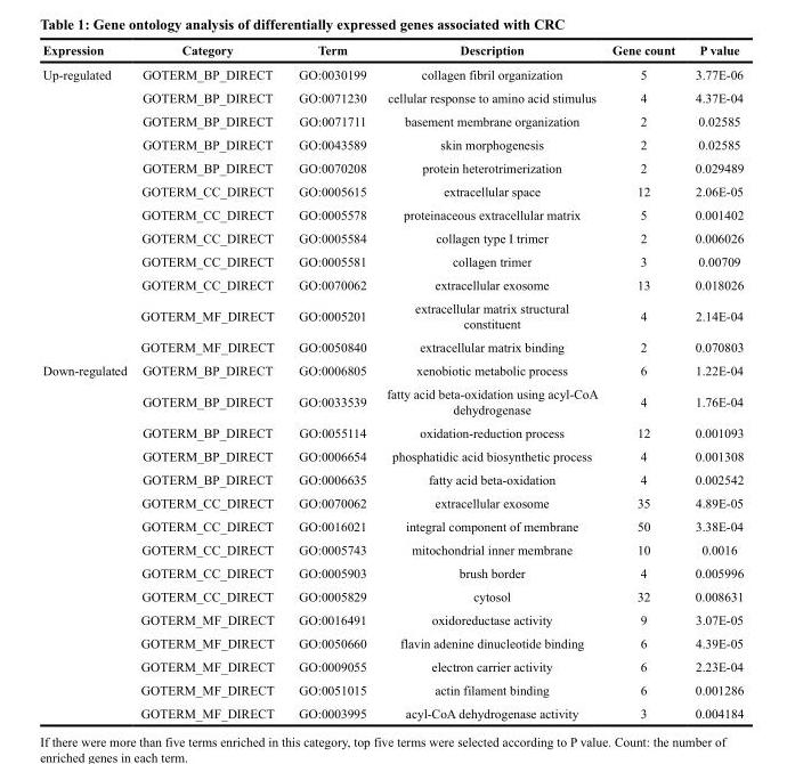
<table><thead><tr><td>Expression</td><td>Category</td><td>Term</td><td>Description</td><td>Gene count</td><td>P value</td></tr></thead><tbody><tr><td rowspan="12">Up-regulated</td><td>GOTERM_BP_DIRECT</td><td>GO:0030199</td><td>collagen fibril organization</td><td>5</td><td>3.77E-06</td></tr><tr><td>GOTERM_BP_DIRECT</td><td>GO:0071230</td><td>cellular response to amino acid stimulus</td><td>4</td><td>4.37E-04</td></tr><tr><td>GOTERM_BP_DIRECT</td><td>GO:0071711</td><td>basement membrane organization</td><td>2</td><td>0.02585</td></tr><tr><td>GOTERM_BP_DIRECT</td><td>GO:0043589</td><td>skin morphogenesis</td><td>2</td><td>0.02585</td></tr><tr><td>GOTERM_BP_DIRECT</td><td>GO:0070208</td><td>protein heterotrimerization</td><td>2</td><td>0.029489</td></tr><tr><td>GOTERM_CC_DIRECT</td><td>GO:0005615</td><td>extracellular space</td><td>12</td><td>2.06E-05</td></tr><tr><td>GOTERM_CC_DIRECT</td><td>GO:0005578</td><td>proteinaceous extracellular matrix</td><td>5</td><td>0.001402</td></tr><tr><td>GOTERM_CC_DIRECT</td><td>GO:0005584</td><td>collagen type I trimer</td><td>2</td><td>0.006026</td></tr><tr><td>GOTERM_CC_DIRECT</td><td>GO:0005581</td><td>collagen trimer</td><td>3</td><td>0.00709</td></tr><tr><td>GOTERM_CC_DIRECT</td><td>GO:0070062</td><td>extracellular exosome</td><td>13</td><td>0.018026</td></tr><tr><td>GOTERM_MF_DIRECT</td><td>GO:0005201</td><td>extracellular matrix structural constituent</td><td>4</td><td>2.14E-04</td></tr><tr><td>GOTERM_MF_DIRECT</td><td>GO:0050840</td><td>extracellular matrix binding</td><td>2</td><td>0.070803</td></tr><tr><td rowspan="15">Down-regulated</td><td>GOTERM_BP_DIRECT</td><td>GO:0006805</td><td>xenobiotic metabolic process</td><td>6</td><td>1.22E-04</td></tr><tr><td>GOTERM_BP_DIRECT</td><td>GO:0033539</td><td>fatty acid beta-oxidation using acyl-CoA dehydrogenase</td><td>4</td><td>1.76E-04</td></tr><tr><td>GOTERM_BP_DIRECT</td><td>GO:0055114</td><td>oxidation-reduction process</td><td>12</td><td>0.001093</td></tr><tr><td>GOTERM_BP_DIRECT</td><td>GO:0006654</td><td>phosphatidic acid biosynthetic process</td><td>4</td><td>0.001308</td></tr><tr><td>GOTERM_BP_DIRECT</td><td>GO:0006635</td><td>fatty acid beta-oxidation</td><td>4</td><td>0.002542</td></tr><tr><td>GOTERM_CC_DIRECT</td><td>GO:0070062</td><td>extracellular exosome</td><td>35</td><td>4.89E-05</td></tr><tr><td>GOTERM_CC_DIRECT</td><td>GO:0016021</td><td>integral component of membrane</td><td>50</td><td>3.38E-04</td></tr><tr><td>GOTERM_CC_DIRECT</td><td>GO:0005743</td><td>mitochondrial inner membrane</td><td>10</td><td>0.0016</td></tr><tr><td>GOTERM_CC_DIRECT</td><td>GO:0005903</td><td>brush border</td><td>4</td><td>0.005996</td></tr><tr><td>GOTERM_CC_DIRECT</td><td>GO:0005829</td><td>cytosol</td><td>32</td><td>0.008631</td></tr><tr><td>GOTERM_MF_DIRECT</td><td>GO:0016491</td><td>oxidoreductase activity</td><td>9</td><td>3.07E-05</td></tr><tr><td>GOTERM_MF_DIRECT</td><td>GO:0050660</td><td>flavin adenine dinucleotide binding</td><td>6</td><td>4.39E-05</td></tr><tr><td>GOTERM_MF_DIRECT</td><td>GO:0009055</td><td>electron carrier activity</td><td>6</td><td>2.23E-04</td></tr><tr><td>GOTERM_MF_DIRECT</td><td>GO:0051015</td><td>actin filament binding</td><td>6</td><td>0.001286</td></tr><tr><td>GOTERM_MF_DIRECT</td><td>GO:0003995</td><td>acyl-CoA dehydrogenase activity</td><td>3</td><td>0.004184</td></tr></tbody></table>